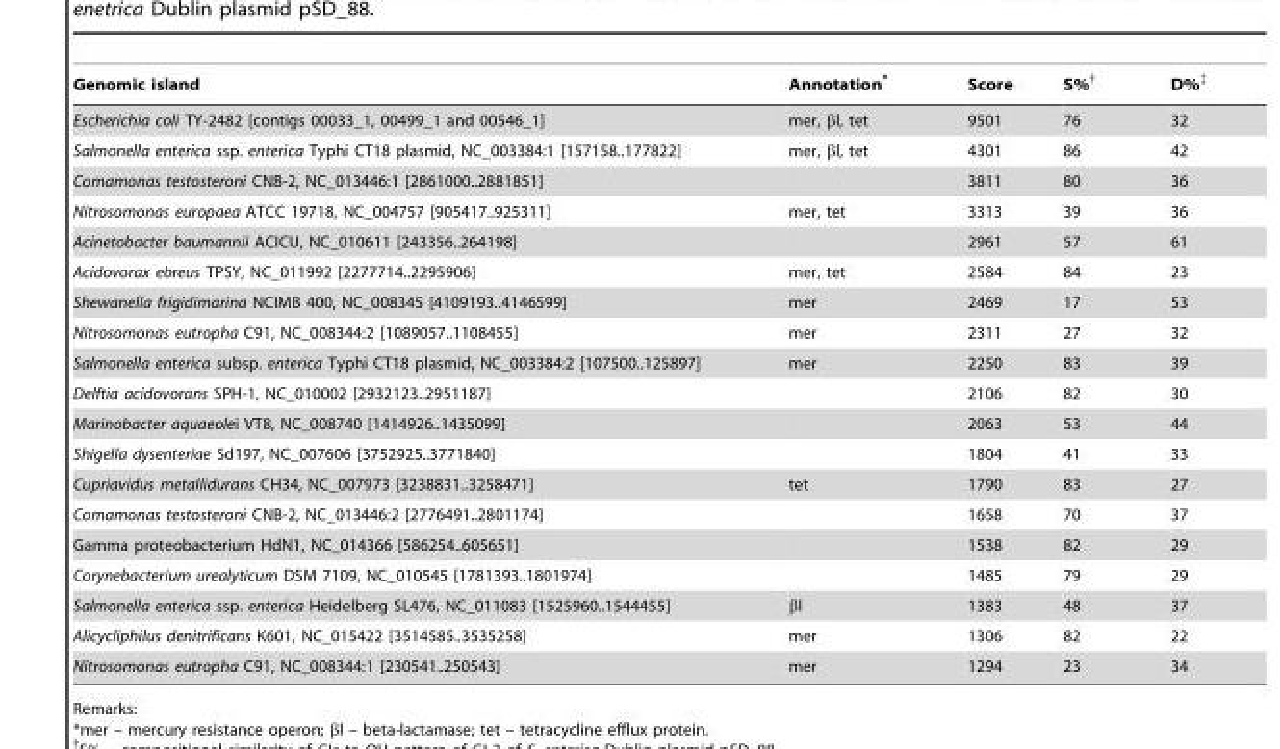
<table><thead><tr><td>Genomic island</td><td>Annotation*</td><td>Score</td><td>S%†</td><td>D%‡</td></tr></thead><tbody><tr><td>Escherichia coli TY-2482 [contigs 00033_1, 00499_1 and 00546_1]</td><td>mer, βl, tet</td><td>9501</td><td>76</td><td>32</td></tr><tr><td>Salmonella enterica ssp. enterica Typhi CT18 plasmid, NC_003384:1 [157158..177822]</td><td>mer, βl, tet</td><td>4301</td><td>86</td><td>42</td></tr><tr><td>Comamonas testosteroni CNB-2, NC_013446:1 [2861000..2881851]</td><td></td><td>3811</td><td>80</td><td>36</td></tr><tr><td>Nitrosomonas europaea ATCC 19718, NC_004757 [905417..925311]</td><td>mer, tet</td><td>3313</td><td>39</td><td>36</td></tr><tr><td>Acinetobacter baumannii ACICU, NC_010611 [243356..264198]</td><td></td><td>2961</td><td>57</td><td>61</td></tr><tr><td>Acidovorax ebreus TPSY, NC_011992 [2277714..2295906]</td><td>mer, tet</td><td>2584</td><td>84</td><td>23</td></tr><tr><td>Shewanella frigidimarina NCIMB 400, NC_008345 [4109193..4146599]</td><td>mer</td><td>2469</td><td>17</td><td>53</td></tr><tr><td>Nitrosomonas eutropha C91, NC_008344:2 [1089057..1108455]</td><td>mer</td><td>2311</td><td>27</td><td>32</td></tr><tr><td>Salmonella enterica subsp. enterica Typhi CT18 plasmid, NC_003384:2 [107500..125897]</td><td>mer</td><td>2250</td><td>83</td><td>39</td></tr><tr><td>Delftia acidovorans SPH-1, NC_010002 [2932123..2951187]</td><td></td><td>2106</td><td>82</td><td>30</td></tr><tr><td>Marinobacter aquaeolei VT8, NC_008740 [1414926..1435099]</td><td></td><td>2063</td><td>53</td><td>44</td></tr><tr><td>Shigella dysenteriae Sd197, NC_007606 [3752925..3771840]</td><td></td><td>1804</td><td>41</td><td>33</td></tr><tr><td>Cupriavidus metallidurans CH34, NC_007973 [3238831..3258471]</td><td>tet</td><td>1790</td><td>83</td><td>27</td></tr><tr><td>Comamonas testosteroni CNB-2, NC_013446:2 [2776491..2801174]</td><td></td><td>1658</td><td>70</td><td>37</td></tr><tr><td>Gamma proteobacterium HdN1, NC_014366 [586254..605651]</td><td></td><td>1538</td><td>82</td><td>29</td></tr><tr><td>Corynebacterium urealyticum DSM 7109, NC_010545 [1781393..1801974]</td><td></td><td>1485</td><td>79</td><td>29</td></tr><tr><td>Salmonella enterica ssp. enterica Heidelberg SL476, NC_011083 [1525960..1544455]</td><td>βl</td><td>1383</td><td>48</td><td>37</td></tr><tr><td>Alicycliphilus denitrificans K601, NC_015422 [3514585..3535258]</td><td>mer</td><td>1306</td><td>82</td><td>22</td></tr><tr><td>Nitrosomonas eutropha C91, NC_008344:1 [230541..250543]</td><td>mer</td><td>1294</td><td>23</td><td>34</td></tr></tbody></table>